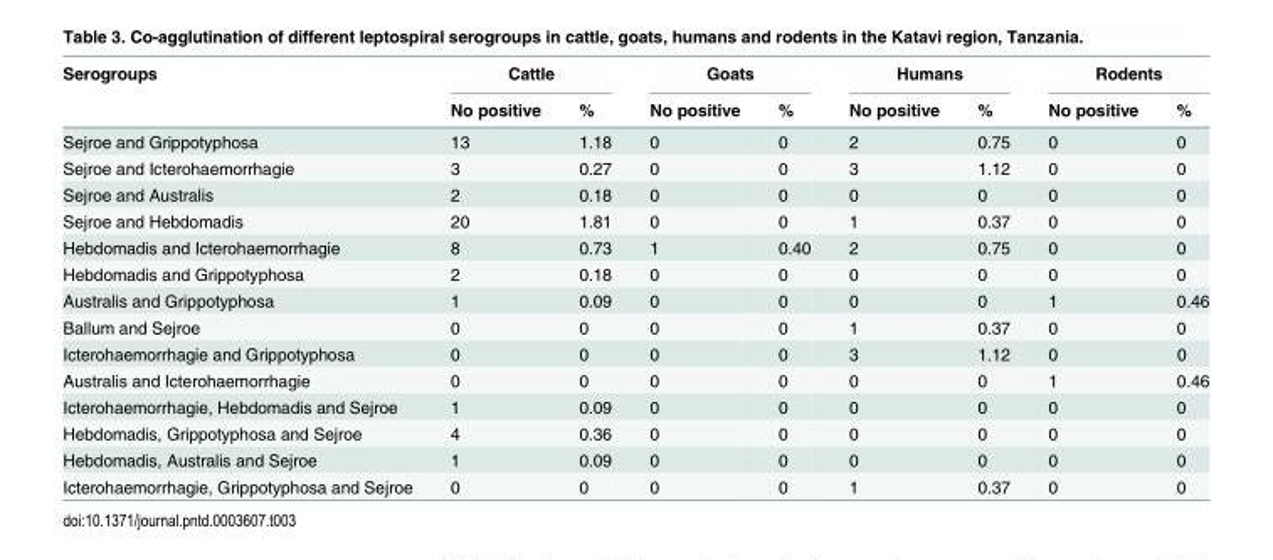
<table><thead><tr><td rowspan="2">Serogroups</td><td colspan="2">Cattle</td><td colspan="2">Goats</td><td colspan="2">Humans</td><td colspan="2">Rodents</td></tr><tr><td>No positive</td><td>%</td><td>No positive</td><td>%</td><td>No positive</td><td>%</td><td>No positive</td><td>%</td></tr></thead><tbody><tr><td>Sejroe and Grippotyphosa</td><td>13</td><td>1.18</td><td>0</td><td>0</td><td>2</td><td>0.75</td><td>0</td><td>0</td></tr><tr><td>Sejroe and Icterohaemorrhagie</td><td>3</td><td>0.27</td><td>0</td><td>0</td><td>3</td><td>1.12</td><td>0</td><td>0</td></tr><tr><td>Sejroe and Australis</td><td>2</td><td>0.18</td><td>0</td><td>0</td><td>0</td><td>0</td><td>0</td><td>0</td></tr><tr><td>Sejroe and Hebdomadis</td><td>20</td><td>1.81</td><td>0</td><td>0</td><td>1</td><td>0.37</td><td>0</td><td>0</td></tr><tr><td>Hebdomadis and Icterohaemorrhagie</td><td>8</td><td>0.73</td><td>1</td><td>0.40</td><td>2</td><td>0.75</td><td>0</td><td>0</td></tr><tr><td>Hebdomadis and Grippotyphosa</td><td>2</td><td>0.18</td><td>0</td><td>0</td><td>0</td><td>0</td><td>0</td><td>0</td></tr><tr><td>Australis and Grippotyphosa</td><td>1</td><td>0.09</td><td>0</td><td>0</td><td>0</td><td>0</td><td>1</td><td>0.46</td></tr><tr><td>Ballum and Sejroe</td><td>0</td><td>0</td><td>0</td><td>0</td><td>1</td><td>0.37</td><td>0</td><td>0</td></tr><tr><td>Icterohaemorrhagie and Grippotyphosa</td><td>0</td><td>0</td><td>0</td><td>0</td><td>3</td><td>1.12</td><td>0</td><td>0</td></tr><tr><td>Australis and Icterohaemorrhagie</td><td>0</td><td>0</td><td>0</td><td>0</td><td>0</td><td>0</td><td>1</td><td>0.46</td></tr><tr><td>Icterohaemorrhagie, Hebdomadis and Sejroe</td><td>1</td><td>0.09</td><td>0</td><td>0</td><td>0</td><td>0</td><td>0</td><td>0</td></tr><tr><td>Hebdomadis, Grippotyphosa and Sejroe</td><td>4</td><td>0.36</td><td>0</td><td>0</td><td>0</td><td>0</td><td>0</td><td>0</td></tr><tr><td>Hebdomadis, Australis and Sejroe</td><td>1</td><td>0.09</td><td>0</td><td>0</td><td>0</td><td>0</td><td>0</td><td>0</td></tr><tr><td>Icterohaemorrhagie, Grippotyphosa and Sejroe</td><td>0</td><td>0</td><td>0</td><td>0</td><td>1</td><td>0.37</td><td>0</td><td>0</td></tr></tbody></table>